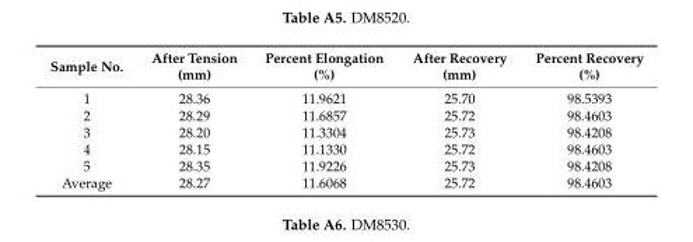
<table><thead><tr><td>Sample No.</td><td>After Tension (mm)</td><td>Percent Elongation (%)</td><td>After Recovery (mm)</td><td>Percent Recovery (%)</td></tr></thead><tbody><tr><td>1</td><td>28.36</td><td>11.9621</td><td>25.70</td><td>98.5393</td></tr><tr><td>2</td><td>28.29</td><td>11.6857</td><td>25.72</td><td>98.4603</td></tr><tr><td>3</td><td>28.20</td><td>11.3304</td><td>25.73</td><td>98.4208</td></tr><tr><td>4</td><td>28.15</td><td>11.1330</td><td>25.72</td><td>98.4603</td></tr><tr><td>5</td><td>28.35</td><td>11.9226</td><td>25.73</td><td>98.4208</td></tr><tr><td>Average</td><td>28.27</td><td>11.6068</td><td>25.72</td><td>98.4603</td></tr></tbody></table>